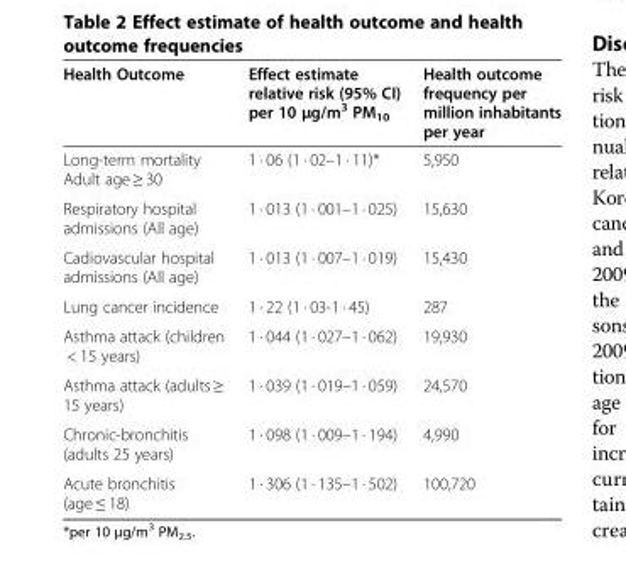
<table><thead><tr><td>Health Outcome</td><td>Effect estimate relative risk (95% CI) per 10 μg/m<sup>3</sup> PM<sub>10</sub></td><td>Health outcome frequency per million inhabitants per year</td></tr></thead><tbody><tr><td>Long-term mortality Adult age ≥ 30</td><td>1 · 06 (1 · 02–1 · 11)*</td><td>5,950</td></tr><tr><td>Respiratory hospital admissions (All age)</td><td>1 · 013 (1 · 001–1 · 025)</td><td>15,630</td></tr><tr><td>Cadiovascular hospital admissions (All age)</td><td>1 · 013 (1 · 007–1 · 019)</td><td>15,430</td></tr><tr><td>Lung cancer incidence</td><td>1 · 22 (1 · 03-1 · 45)</td><td>287</td></tr><tr><td>Asthma attack (children &lt; 15 years)</td><td>1 · 044 (1 · 027–1 · 062)</td><td>19,930</td></tr><tr><td>Asthma attack (adults ≥ 15 years)</td><td>1 · 039 (1 · 019–1 · 059)</td><td>24,570</td></tr><tr><td>Chronic-bronchitis (adults 25 years)</td><td>1 · 098 (1 · 009–1 · 194)</td><td>4,990</td></tr><tr><td>Acute bronchitis (age ≤ 18)</td><td>1 · 306 (1 · 135–1 · 502)</td><td>100,720</td></tr></tbody></table>